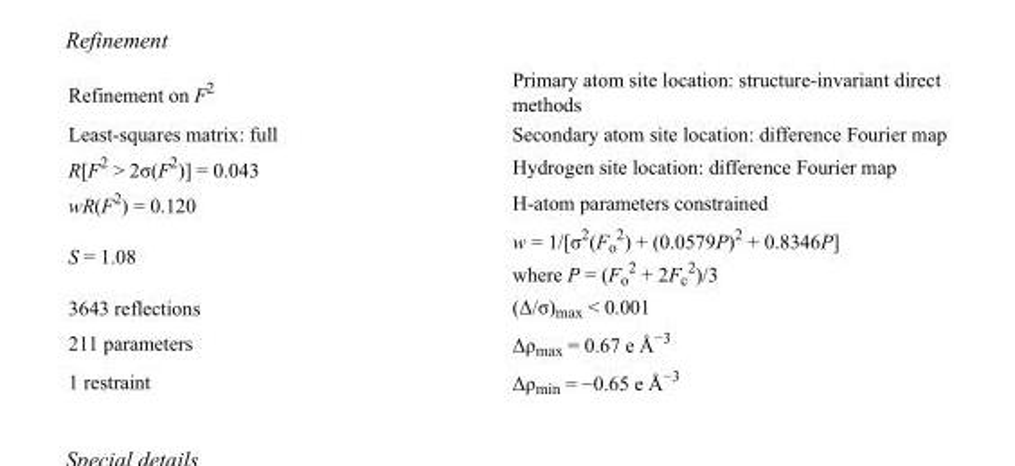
<table><tbody><tr><td>Refinement on F<sup>2</sup></td><td>Primary atom site location: structure-invariant direct methods</td></tr><tr><td>Least-squares matrix: full</td><td>Secondary atom site location: difference Fourier map</td></tr><tr><td>R[F<sup>2</sup> &gt; 2σ(F<sup>2</sup>)] = 0.043</td><td>Hydrogen site location: difference Fourier map</td></tr><tr><td>wR(F<sup>2</sup>) = 0.120</td><td>H-atom parameters constrained</td></tr><tr><td>S = 1.08</td><td>w = 1/[σ<sup>2</sup>(F<sub>o</sub> <sup>2</sup>) + (0.0579P)<sup>2</sup> + 0.8346P] where P = (F<sub>o</sub> <sup>2</sup> + 2F<sub>c</sub> <sup>2</sup>)/3</td></tr><tr><td>3643 reflections</td><td>(Δ/σ)<sub>max</sub> &lt; 0.001</td></tr><tr><td>211 parameters</td><td>Δρ<sub>max</sub> = 0.67 e Å<sup>−3</sup></td></tr><tr><td>1 restraint</td><td>Δρ<sub>min</sub> = −0.65 e Å<sup>−3</sup></td></tr></tbody></table>